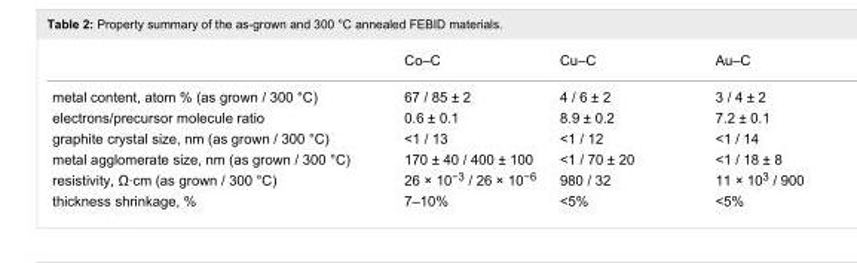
<table><thead><tr><td></td><td>Co–C</td><td>Cu–C</td><td>Au–C</td></tr></thead><tbody><tr><td>metal content, atom % (as grown / 300 °C)</td><td>67 / 85 ± 2</td><td>4 / 6 ± 2</td><td>3 / 4 ± 2</td></tr><tr><td>electrons/precursor molecule ratio</td><td>0.6 ± 0.1</td><td>8.9 ± 0.2</td><td>7.2 ± 0.1</td></tr><tr><td>graphite crystal size, nm (as grown / 300 °C)</td><td>&lt;1 / 13</td><td>&lt;1 / 12</td><td>&lt;1 / 14</td></tr><tr><td>metal agglomerate size, nm (as grown / 300 °C)</td><td>170 ± 40 / 400 ± 100</td><td>&lt;1 / 70 ± 20</td><td>&lt;1 / 18 ± 8</td></tr><tr><td>resistivity, Ω·cm (as grown / 300 °C)</td><td>26 × 10<sup>−3</sup> / 26 × 10<sup>−6</sup></td><td>980 / 32</td><td>11 × 10<sup>3</sup> / 900</td></tr><tr><td>thickness shrinkage, %</td><td>7–10%</td><td>&lt;5%</td><td>&lt;5%</td></tr></tbody></table>